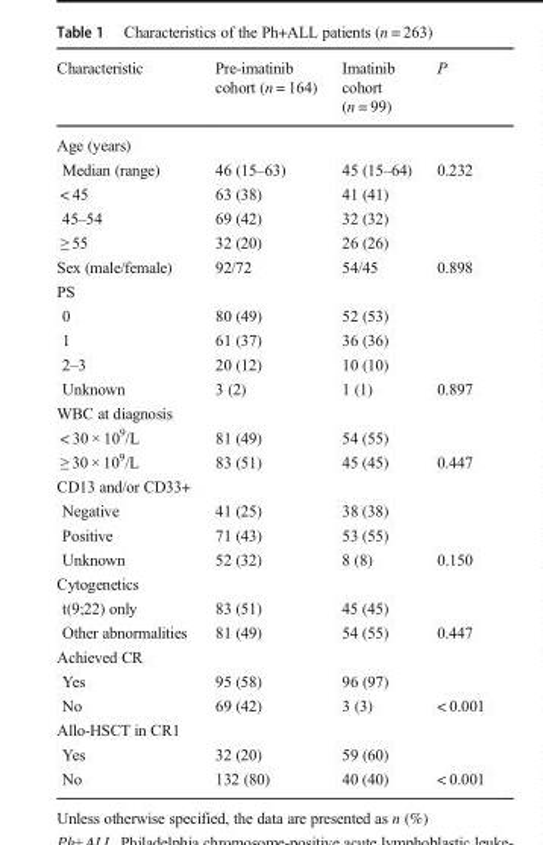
<table><thead><tr><td>Characteristic</td><td>Pre-imatinib cohort (n = 164)</td><td>Imatinib cohort (n = 99)</td><td>P</td></tr></thead><tbody><tr><td colspan="4">Age (years)</td></tr><tr><td>Median (range)</td><td>46 (15–63)</td><td>45 (15–64)</td><td>0.232</td></tr><tr><td>&lt; 45</td><td>63 (38)</td><td>41 (41)</td><td></td></tr><tr><td>45–54</td><td>69 (42)</td><td>32 (32)</td><td></td></tr><tr><td>≥ 55</td><td>32 (20)</td><td>26 (26)</td><td></td></tr><tr><td>Sex (male/female)</td><td>92/72</td><td>54/45</td><td>0.898</td></tr><tr><td colspan="4">PS</td></tr><tr><td>0</td><td>80 (49)</td><td>52 (53)</td><td></td></tr><tr><td>1</td><td>61 (37)</td><td>36 (36)</td><td></td></tr><tr><td>2–3</td><td>20 (12)</td><td>10 (10)</td><td></td></tr><tr><td>Unknown</td><td>3 (2)</td><td>1 (1)</td><td>0.897</td></tr><tr><td colspan="4">WBC at diagnosis</td></tr><tr><td>&lt; 30 × 10<sup>9</sup>/L</td><td>81 (49)</td><td>54 (55)</td><td></td></tr><tr><td>≥ 30 × 10<sup>9</sup>/L</td><td>83 (51)</td><td>45 (45)</td><td>0.447</td></tr><tr><td colspan="4">CD13 and/or CD33+</td></tr><tr><td>Negative</td><td>41 (25)</td><td>38 (38)</td><td></td></tr><tr><td>Positive</td><td>71 (43)</td><td>53 (55)</td><td></td></tr><tr><td>Unknown</td><td>52 (32)</td><td>8 (8)</td><td>0.150</td></tr><tr><td colspan="4">Cytogenetics</td></tr><tr><td>t(9;22) only</td><td>83 (51)</td><td>45 (45)</td><td></td></tr><tr><td>Other abnormalities</td><td>81 (49)</td><td>54 (55)</td><td>0.447</td></tr><tr><td colspan="4">Achieved CR</td></tr><tr><td>Yes</td><td>95 (58)</td><td>96 (97)</td><td></td></tr><tr><td>No</td><td>69 (42)</td><td>3 (3)</td><td>&lt; 0.001</td></tr><tr><td colspan="4">Allo-HSCT in CR1</td></tr><tr><td>Yes</td><td>32 (20)</td><td>59 (60)</td><td></td></tr><tr><td>No</td><td>132 (80)</td><td>40 (40)</td><td>&lt; 0.001</td></tr></tbody></table>